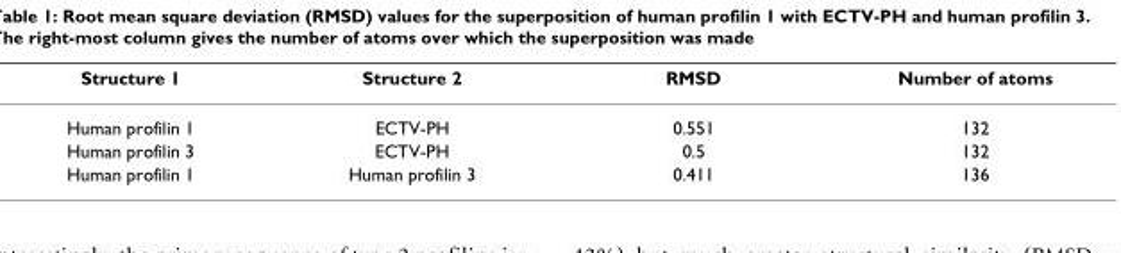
<table><thead><tr><td>Structure 1</td><td>Structure 2</td><td>RMSD</td><td>Number of atoms</td></tr></thead><tbody><tr><td>Human profilin 1</td><td>ECTV-PH</td><td>0.551</td><td>132</td></tr><tr><td>Human profilin 3</td><td>ECTV-PH</td><td>0.5</td><td>132</td></tr><tr><td>Human profilin 1</td><td>Human profilin 3</td><td>0.411</td><td>136</td></tr></tbody></table>